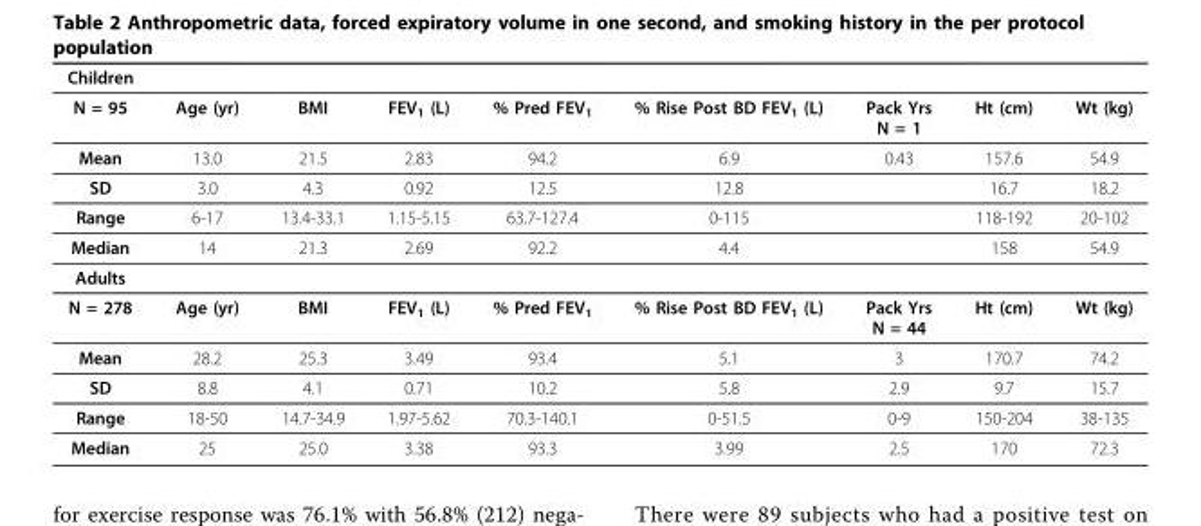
<table><thead><tr><td>Children</td><td></td><td></td><td></td><td></td><td></td><td></td><td></td><td></td></tr></thead><tbody><tr><td>N = 95</td><td>Age (yr)</td><td>BMI</td><td>FEV<sub>1</sub> (L)</td><td>% Pred FEV<sub>1</sub></td><td>% Rise Post BD FEV<sub>1</sub> (L)</td><td>Pack Yrs N = 1</td><td>Ht (cm)</td><td>Wt (kg)</td></tr><tr><td>Mean</td><td>13.0</td><td>21.5</td><td>2.83</td><td>94.2</td><td>6.9</td><td>0.43</td><td>157.6</td><td>54.9</td></tr><tr><td>SD</td><td>3.0</td><td>4.3</td><td>0.92</td><td>12.5</td><td>12.8</td><td></td><td>16.7</td><td>18.2</td></tr><tr><td>Range</td><td>6-17</td><td>13.4-33.1</td><td>1.15-5.15</td><td>63.7-127.4</td><td>0-115</td><td></td><td>118-192</td><td>20-102</td></tr><tr><td>Median</td><td>14</td><td>21.3</td><td>2.69</td><td>92.2</td><td>4.4</td><td></td><td>158</td><td>54.9</td></tr><tr><td colspan="9">Adults</td></tr><tr><td>N = 278</td><td>Age (yr)</td><td>BMI</td><td>FEV<sub>1</sub> (L)</td><td>% Pred FEV<sub>1</sub></td><td>% Rise Post BD FEV<sub>1</sub> (L)</td><td>Pack Yrs N = 44</td><td>Ht (cm)</td><td>Wt (kg)</td></tr><tr><td>Mean</td><td>28.2</td><td>25.3</td><td>3.49</td><td>93.4</td><td>5.1</td><td>3</td><td>170.7</td><td>74.2</td></tr><tr><td>SD</td><td>8.8</td><td>4.1</td><td>0.71</td><td>10.2</td><td>5.8</td><td>2.9</td><td>9.7</td><td>15.7</td></tr><tr><td>Range</td><td>18-50</td><td>14.7-34.9</td><td>1.97-5.62</td><td>70.3-140.1</td><td>0-51.5</td><td>0-9</td><td>150-204</td><td>38-135</td></tr><tr><td>Median</td><td>25</td><td>25.0</td><td>3.38</td><td>93.3</td><td>3.99</td><td>2.5</td><td>170</td><td>72.3</td></tr></tbody></table>